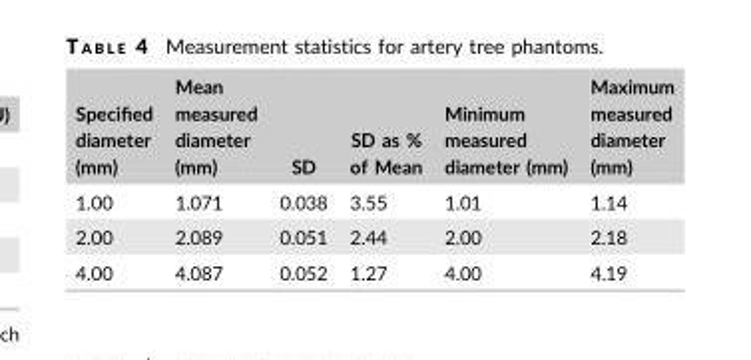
<table><thead><tr><td>Specified diameter (mm)</td><td>Mean measured diameter (mm)</td><td>SD</td><td>SD as % of Mean</td><td>Minimum measured diameter (mm)</td><td>Maximum measured diameter (mm)</td></tr></thead><tbody><tr><td>1.00</td><td>1.071</td><td>0.038</td><td>3.55</td><td>1.01</td><td>1.14</td></tr><tr><td>2.00</td><td>2.089</td><td>0.051</td><td>2.44</td><td>2.00</td><td>2.18</td></tr><tr><td>4.00</td><td>4.087</td><td>0.052</td><td>1.27</td><td>4.00</td><td>4.19</td></tr></tbody></table>